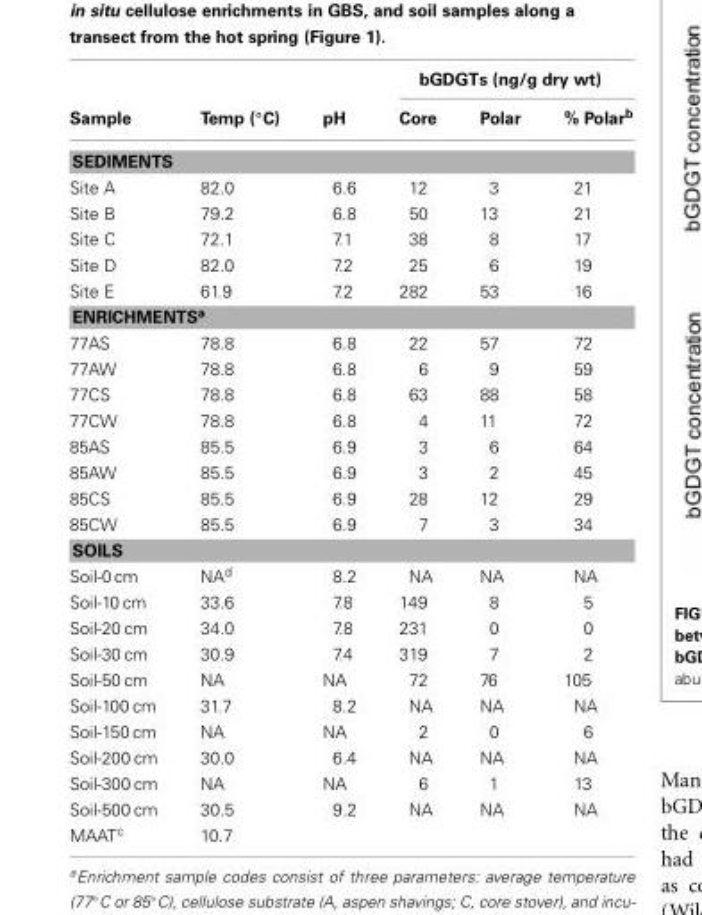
<table><thead><tr><td rowspan="2">Sample</td><td rowspan="2">Temp (◦C)</td><td rowspan="2">pH</td><td colspan="3">bGDGTs (ng/g dry wt)</td></tr><tr><td>Core</td><td>Polar</td><td>% Polar<sup>b</sup></td></tr></thead><tbody><tr><td colspan="6">SEDIMENTS</td></tr><tr><td>Site A</td><td>82.0</td><td>6.6</td><td>12</td><td>3</td><td>21</td></tr><tr><td>Site B</td><td>79.2</td><td>6.8</td><td>50</td><td>13</td><td>21</td></tr><tr><td>Site C</td><td>72.1</td><td>7.1</td><td>38</td><td>8</td><td>17</td></tr><tr><td>Site D</td><td>82.0</td><td>7.2</td><td>25</td><td>6</td><td>19</td></tr><tr><td>Site E</td><td>61.9</td><td>7.2</td><td>282</td><td>53</td><td>16</td></tr><tr><td colspan="6">ENRICHMENTS<sup>a</sup></td></tr><tr><td>77AS</td><td>78.8</td><td>6.8</td><td>22</td><td>57</td><td>72</td></tr><tr><td>77AW</td><td>78.8</td><td>6.8</td><td>6</td><td>9</td><td>59</td></tr><tr><td>77CS</td><td>78.8</td><td>6.8</td><td>63</td><td>88</td><td>58</td></tr><tr><td>77CW</td><td>78.8</td><td>6.8</td><td>4</td><td>11</td><td>72</td></tr><tr><td>85AS</td><td>85.5</td><td>6.9</td><td>3</td><td>6</td><td>64</td></tr><tr><td>85AW</td><td>85.5</td><td>6.9</td><td>3</td><td>2</td><td>45</td></tr><tr><td>85CS</td><td>85.5</td><td>6.9</td><td>28</td><td>12</td><td>29</td></tr><tr><td>85CW</td><td>85.5</td><td>6.9</td><td>7</td><td>3</td><td>34</td></tr><tr><td colspan="6">SOILS</td></tr><tr><td>Soil-0 cm</td><td>NA<sup>d</sup></td><td>8.2</td><td>NA</td><td>NA</td><td>NA</td></tr><tr><td>Soil-10 cm</td><td>33.6</td><td>7.8</td><td>149</td><td>8</td><td>5</td></tr><tr><td>Soil-20 cm</td><td>34.0</td><td>7.8</td><td>231</td><td>0</td><td>0</td></tr><tr><td>Soil-30 cm</td><td>30.9</td><td>7.4</td><td>319</td><td>7</td><td>2</td></tr><tr><td>Soil-50 cm</td><td>NA</td><td>NA</td><td>72</td><td>76</td><td>105</td></tr><tr><td>Soil-100 cm</td><td>31.7</td><td>8.2</td><td>NA</td><td>NA</td><td>NA</td></tr><tr><td>Soil-150 cm</td><td>NA</td><td>NA</td><td>2</td><td>0</td><td>6</td></tr><tr><td>Soil-200 cm</td><td>30.0</td><td>6.4</td><td>NA</td><td>NA</td><td>NA</td></tr><tr><td>Soil-300 cm</td><td>NA</td><td>NA</td><td>6</td><td>1</td><td>13</td></tr><tr><td>Soil-500 cm</td><td>30.5</td><td>9.2</td><td>NA</td><td>NA</td><td>NA</td></tr><tr><td>MAAT<sup>c</sup></td><td>10.7</td><td></td><td></td><td></td><td></td></tr></tbody></table>